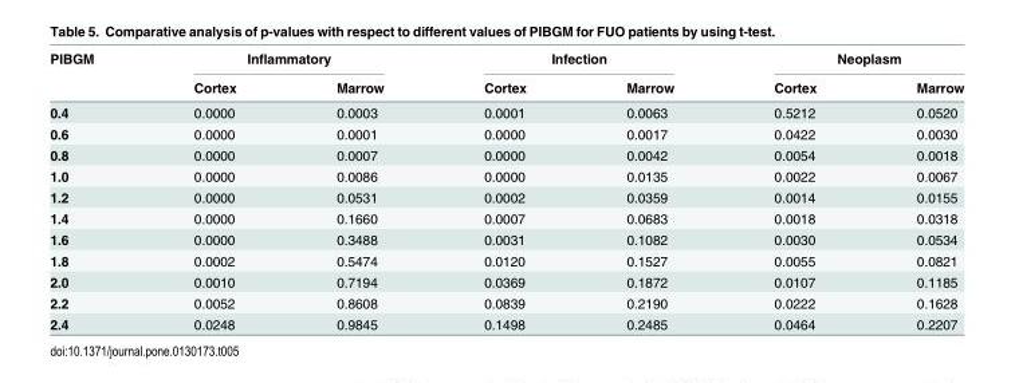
<table><thead><tr><td rowspan="2">PIBGM</td><td colspan="2">Inflammatory</td><td colspan="2">Infection</td><td colspan="2">Neoplasm</td></tr><tr><td>Cortex</td><td>Marrow</td><td>Cortex</td><td>Marrow</td><td>Cortex</td><td>Marrow</td></tr></thead><tbody><tr><td>0.4</td><td>0.0000</td><td>0.0003</td><td>0.0001</td><td>0.0063</td><td>0.5212</td><td>0.0520</td></tr><tr><td>0.6</td><td>0.0000</td><td>0.0001</td><td>0.0000</td><td>0.0017</td><td>0.0422</td><td>0.0030</td></tr><tr><td>0.8</td><td>0.0000</td><td>0.0007</td><td>0.0000</td><td>0.0042</td><td>0.0054</td><td>0.0018</td></tr><tr><td>1.0</td><td>0.0000</td><td>0.0086</td><td>0.0000</td><td>0.0135</td><td>0.0022</td><td>0.0067</td></tr><tr><td>1.2</td><td>0.0000</td><td>0.0531</td><td>0.0002</td><td>0.0359</td><td>0.0014</td><td>0.0155</td></tr><tr><td>1.4</td><td>0.0000</td><td>0.1660</td><td>0.0007</td><td>0.0683</td><td>0.0018</td><td>0.0318</td></tr><tr><td>1.6</td><td>0.0000</td><td>0.3488</td><td>0.0031</td><td>0.1082</td><td>0.0030</td><td>0.0534</td></tr><tr><td>1.8</td><td>0.0002</td><td>0.5474</td><td>0.0120</td><td>0.1527</td><td>0.0055</td><td>0.0821</td></tr><tr><td>2.0</td><td>0.0010</td><td>0.7194</td><td>0.0369</td><td>0.1872</td><td>0.0107</td><td>0.1185</td></tr><tr><td>2.2</td><td>0.0052</td><td>0.8608</td><td>0.0839</td><td>0.2190</td><td>0.0222</td><td>0.1628</td></tr><tr><td>2.4</td><td>0.0248</td><td>0.9845</td><td>0.1498</td><td>0.2485</td><td>0.0464</td><td>0.2207</td></tr></tbody></table>